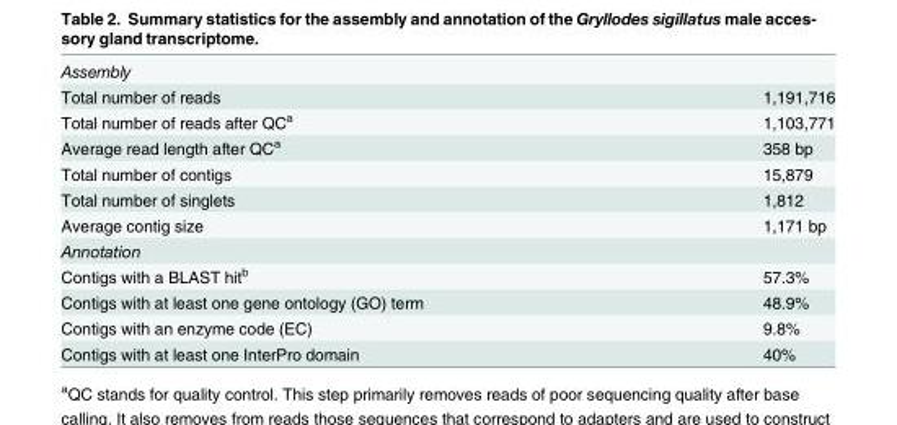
<table><tbody><tr><td colspan="2">Assembly</td></tr><tr><td>Total number of reads</td><td>1,191,716</td></tr><tr><td>Total number of reads after QC<sup>a</sup></td><td>1,103,771</td></tr><tr><td>Average read length after QC<sup>a</sup></td><td>358 bp</td></tr><tr><td>Total number of contigs</td><td>15,879</td></tr><tr><td>Total number of singlets</td><td>1,812</td></tr><tr><td>Average contig size</td><td>1,171 bp</td></tr><tr><td colspan="2">Annotation</td></tr><tr><td>Contigs with a BLAST hit<sup>b</sup></td><td>57.3%</td></tr><tr><td>Contigs with at least one gene ontology (GO) term</td><td>48.9%</td></tr><tr><td>Contigs with an enzyme code (EC)</td><td>9.8%</td></tr><tr><td>Contigs with at least one InterPro domain</td><td>40%</td></tr></tbody></table>